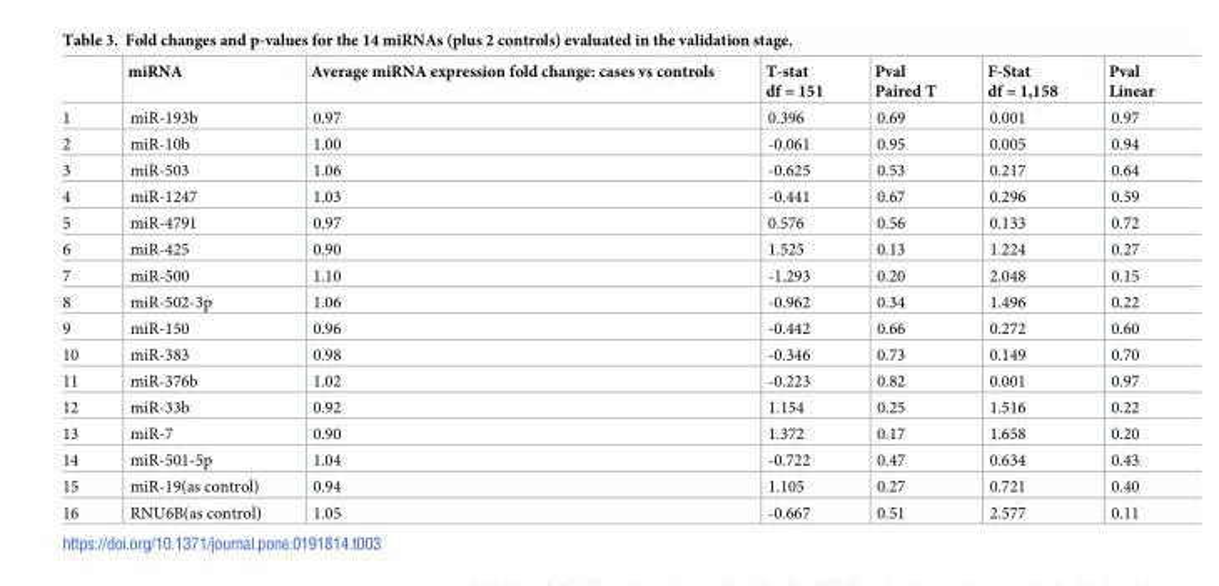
<table><thead><tr><td></td><td>miRNA</td><td>Average miRNA expression fold change: cases vs controls</td><td>T-stat df = 151</td><td>Pval Paired T</td><td>F-Stat df = 1,158</td><td>Pval Linear</td></tr></thead><tbody><tr><td>1</td><td>miR-193b</td><td>0.97</td><td>0.396</td><td>0.69</td><td>0.001</td><td>0.97</td></tr><tr><td>2</td><td>miR-10b</td><td>1.00</td><td>-0.061</td><td>0.95</td><td>0.005</td><td>0.94</td></tr><tr><td>3</td><td>miR-503</td><td>1.06</td><td>-0.625</td><td>0.53</td><td>0.217</td><td>0.64</td></tr><tr><td>4</td><td>miR-1247</td><td>1.03</td><td>-0.441</td><td>0.67</td><td>0.296</td><td>0.59</td></tr><tr><td>5</td><td>miR-4791</td><td>0.97</td><td>0.576</td><td>0.56</td><td>0.133</td><td>0.72</td></tr><tr><td>6</td><td>miR-425</td><td>0.90</td><td>1.525</td><td>0.13</td><td>1.224</td><td>0.27</td></tr><tr><td>7</td><td>miR-500</td><td>1.10</td><td>-1.293</td><td>0.20</td><td>2.048</td><td>0.15</td></tr><tr><td>8</td><td>miR-502-3p</td><td>1.06</td><td>-0.962</td><td>0.34</td><td>1.496</td><td>0.22</td></tr><tr><td>9</td><td>miR-150</td><td>0.96</td><td>-0.442</td><td>0.66</td><td>0.272</td><td>0.60</td></tr><tr><td>10</td><td>miR-383</td><td>0.98</td><td>-0.346</td><td>0.73</td><td>0.149</td><td>0.70</td></tr><tr><td>11</td><td>miR-376b</td><td>1.02</td><td>-0.223</td><td>0.82</td><td>0.001</td><td>0.97</td></tr><tr><td>12</td><td>miR-33b</td><td>0.92</td><td>1.154</td><td>0.25</td><td>1.516</td><td>0.22</td></tr><tr><td>13</td><td>miR-7</td><td>0.90</td><td>1.372</td><td>0.17</td><td>1.658</td><td>0.20</td></tr><tr><td>14</td><td>miR-501-5p</td><td>1.04</td><td>-0.722</td><td>0.47</td><td>0.634</td><td>0.43</td></tr><tr><td>15</td><td>miR-19(as control)</td><td>0.94</td><td>1.105</td><td>0.27</td><td>0.721</td><td>0.40</td></tr><tr><td>16</td><td>RNU6B(as control)</td><td>1.05</td><td>-0.667</td><td>0.51</td><td>2.577</td><td>0.11</td></tr></tbody></table>